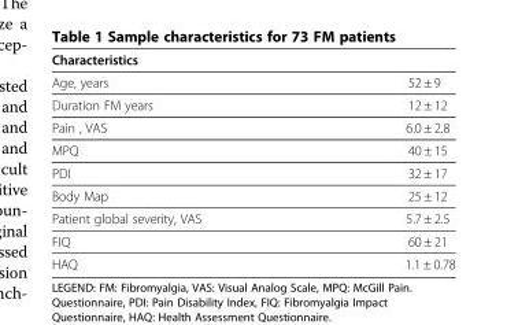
<table><thead><tr><td>Characteristics</td><td></td></tr></thead><tbody><tr><td>Age, years</td><td>52 ± 9</td></tr><tr><td>Duration FM years</td><td>12 ± 12</td></tr><tr><td>Pain , VAS</td><td>6.0 ± 2.8</td></tr><tr><td>MPQ</td><td>40 ± 15</td></tr><tr><td>PDI</td><td>32 ± 17</td></tr><tr><td>Body Map</td><td>25 ± 12</td></tr><tr><td>Patient global severity, VAS</td><td>5.7 ± 2.5</td></tr><tr><td>FIQ</td><td>60 ± 21</td></tr><tr><td>HAQ</td><td>1.1 ± 0.78</td></tr></tbody></table>